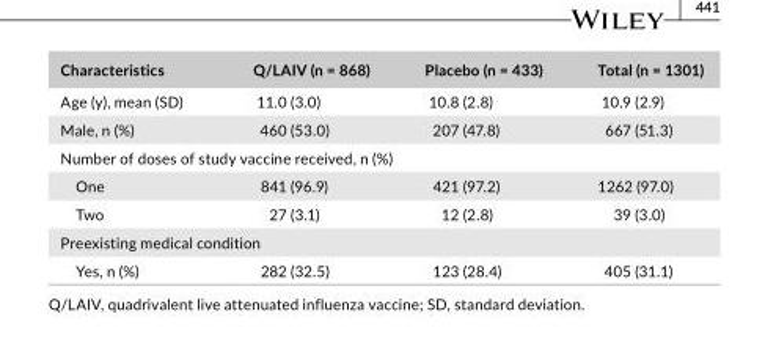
<table><thead><tr><td>Characteristics</td><td>Q/LAIV (n = 868)</td><td>Placebo (n = 433)</td><td>Total (n = 1301)</td></tr></thead><tbody><tr><td>Age (y), mean (SD)</td><td>11.0 (3.0)</td><td>10.8 (2.8)</td><td>10.9 (2.9)</td></tr><tr><td>Male, n (%)</td><td>460 (53.0)</td><td>207 (47.8)</td><td>667 (51.3)</td></tr><tr><td colspan="4">Number of doses of study vaccine received, n (%)</td></tr><tr><td>One</td><td>841 (96.9)</td><td>421 (97.2)</td><td>1262 (97.0)</td></tr><tr><td>Two</td><td>27 (3.1)</td><td>12 (2.8)</td><td>39 (3.0)</td></tr><tr><td colspan="4">Preexisting medical condition</td></tr><tr><td>Yes, n (%)</td><td>282 (32.5)</td><td>123 (28.4)</td><td>405 (31.1)</td></tr></tbody></table>